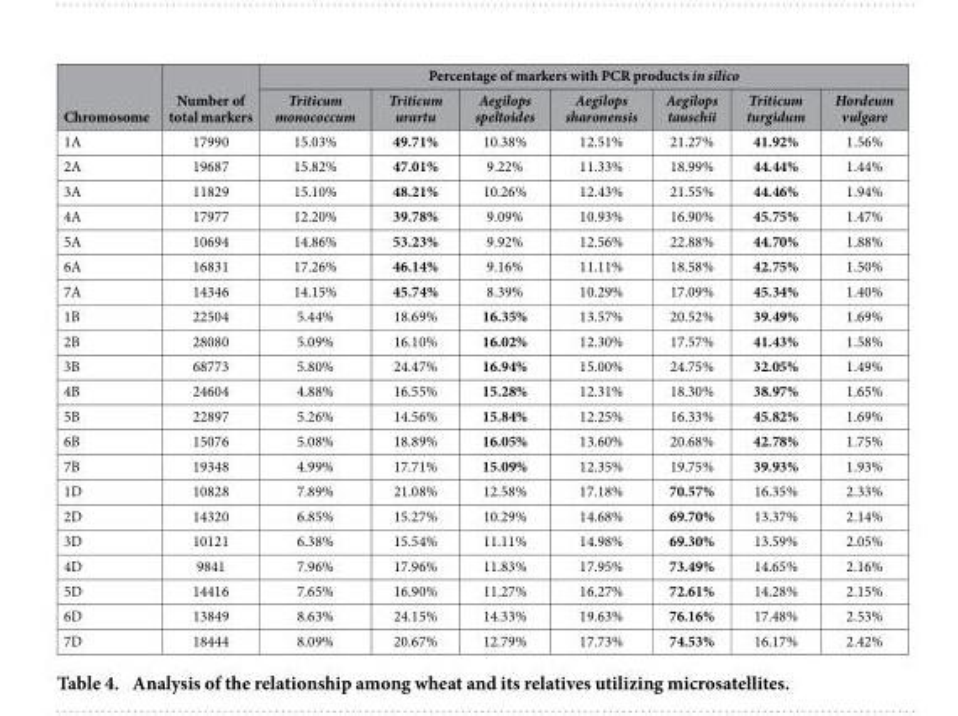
<table><thead><tr><td rowspan="2">Chromosome</td><td rowspan="2">Number of total markers</td><td colspan="7">Percentage of markers with PCR products in silico</td></tr><tr><td>Triticum monococcum</td><td>Triticum urartu</td><td>Aegilops speltoides</td><td>Aegilops sharonensis</td><td>Aegilops tauschii</td><td>Triticum turgidum</td><td>Hordeum vulgare</td></tr></thead><tbody><tr><td>1A</td><td>17990</td><td>15.03%</td><td>49.71%</td><td>10.38%</td><td>12.51%</td><td>21.27%</td><td>41.92%</td><td>1.56%</td></tr><tr><td>2A</td><td>19687</td><td>15.82%</td><td>47.01%</td><td>9.22%</td><td>11.33%</td><td>18.99%</td><td>44.44%</td><td>1.44%</td></tr><tr><td>3A</td><td>11829</td><td>15.10%</td><td>48.21%</td><td>10.26%</td><td>12.43%</td><td>21.55%</td><td>44.46%</td><td>1.94%</td></tr><tr><td>4A</td><td>17977</td><td>12.20%</td><td>39.78%</td><td>9.09%</td><td>10.93%</td><td>16.90%</td><td>45.75%</td><td>1.47%</td></tr><tr><td>5A</td><td>10694</td><td>14.86%</td><td>53.23%</td><td>9.92%</td><td>12.56%</td><td>22.88%</td><td>44.70%</td><td>1.88%</td></tr><tr><td>6A</td><td>16831</td><td>17.26%</td><td>46.14%</td><td>9.16%</td><td>11.11%</td><td>18.58%</td><td>42.75%</td><td>1.50%</td></tr><tr><td>7A</td><td>14346</td><td>14.15%</td><td>45.74%</td><td>8.39%</td><td>10.29%</td><td>17.09%</td><td>45.34%</td><td>1.40%</td></tr><tr><td>1B</td><td>22504</td><td>5.44%</td><td>18.69%</td><td>16.35%</td><td>13.57%</td><td>20.52%</td><td>39.49%</td><td>1.69%</td></tr><tr><td>2B</td><td>28080</td><td>5.09%</td><td>16.10%</td><td>16.02%</td><td>12.30%</td><td>17.57%</td><td>41.43%</td><td>1.58%</td></tr><tr><td>3B</td><td>68773</td><td>5.80%</td><td>24.47%</td><td>16.94%</td><td>15.00%</td><td>24.75%</td><td>32.05%</td><td>1.49%</td></tr><tr><td>4B</td><td>24604</td><td>4.88%</td><td>16.55%</td><td>15.28%</td><td>12.31%</td><td>18.30%</td><td>38.97%</td><td>1.65%</td></tr><tr><td>5B</td><td>22897</td><td>5.26%</td><td>14.56%</td><td>15.84%</td><td>12.25%</td><td>16.33%</td><td>45.82%</td><td>1.69%</td></tr><tr><td>6B</td><td>15076</td><td>5.08%</td><td>18.89%</td><td>16.05%</td><td>13.60%</td><td>20.68%</td><td>42.78%</td><td>1.75%</td></tr><tr><td>7B</td><td>19348</td><td>4.99%</td><td>17.71%</td><td>15.09%</td><td>12.35%</td><td>19.75%</td><td>39.93%</td><td>1.93%</td></tr><tr><td>1D</td><td>10828</td><td>7.89%</td><td>21.08%</td><td>12.58%</td><td>17.18%</td><td>70.57%</td><td>16.35%</td><td>2.33%</td></tr><tr><td>2D</td><td>14320</td><td>6.85%</td><td>15.27%</td><td>10.29%</td><td>14.68%</td><td>69.70%</td><td>13.37%</td><td>2.14%</td></tr><tr><td>3D</td><td>10121</td><td>6.38%</td><td>15.54%</td><td>11.11%</td><td>14.98%</td><td>69.30%</td><td>13.59%</td><td>2.05%</td></tr><tr><td>4D</td><td>9841</td><td>7.96%</td><td>17.96%</td><td>11.83%</td><td>17.95%</td><td>73.49%</td><td>14.65%</td><td>2.16%</td></tr><tr><td>5D</td><td>14416</td><td>7.65%</td><td>16.90%</td><td>11.27%</td><td>16.27%</td><td>72.61%</td><td>14.28%</td><td>2.15%</td></tr><tr><td>6D</td><td>13849</td><td>8.63%</td><td>24.15%</td><td>14.33%</td><td>19.63%</td><td>76.16%</td><td>17.48%</td><td>2.53%</td></tr><tr><td>7D</td><td>18444</td><td>8.09%</td><td>20.67%</td><td>12.79%</td><td>17.73%</td><td>74.53%</td><td>16.17%</td><td>2.42%</td></tr></tbody></table>